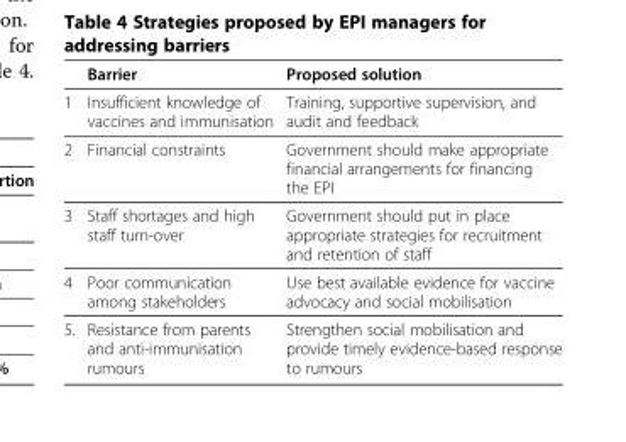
<table><thead><tr><td></td><td>Barrier</td><td>Proposed solution</td></tr></thead><tbody><tr><td>1</td><td>Insufficient knowledge of vaccines and immunisation</td><td>Training, supportive supervision, and audit and feedback</td></tr><tr><td>2</td><td>Financial constraints</td><td>Government should make appropriate financial arrangements for financing the EPI</td></tr><tr><td>3</td><td>Staff shortages and high staff turn-over</td><td>Government should put in place appropriate strategies for recruitment and retention of staff</td></tr><tr><td>4</td><td>Poor communication among stakeholders</td><td>Use best available evidence for vaccine advocacy and social mobilisation</td></tr><tr><td>5.</td><td>Resistance from parents and anti-immunisation rumours</td><td>Strengthen social mobilisation and provide timely evidence-based response to rumours</td></tr></tbody></table>